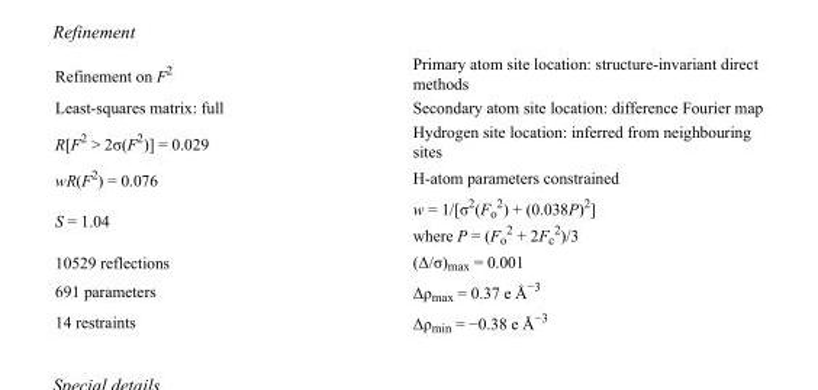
<table><tbody><tr><td>Refinement on F<sup>2</sup></td><td>Primary atom site location: structure-invariant direct methods</td></tr><tr><td>Least-squares matrix: full</td><td>Secondary atom site location: difference Fourier map</td></tr><tr><td>R[F<sup>2</sup> &gt; 2σ(F<sup>2</sup>)] = 0.029</td><td>Hydrogen site location: inferred from neighbouring sites</td></tr><tr><td>wR(F<sup>2</sup>) = 0.076</td><td>H-atom parameters constrained</td></tr><tr><td>S = 1.04</td><td>w = 1/[σ<sup>2</sup>(F<sub>o</sub> <sup>2</sup>) + (0.038P)<sup>2</sup>] where P = (F<sub>o</sub> <sup>2</sup> + 2F<sub>c</sub> <sup>2</sup>)/3</td></tr><tr><td>10529 reflections</td><td>(Δ/σ)<sub>max</sub> = 0.001</td></tr><tr><td>691 parameters</td><td>Δρ<sub>max</sub> = 0.37 e Å<sup>−3</sup></td></tr><tr><td>14 restraints</td><td>Δρ<sub>min</sub> = −0.38 e Å<sup>−3</sup></td></tr></tbody></table>